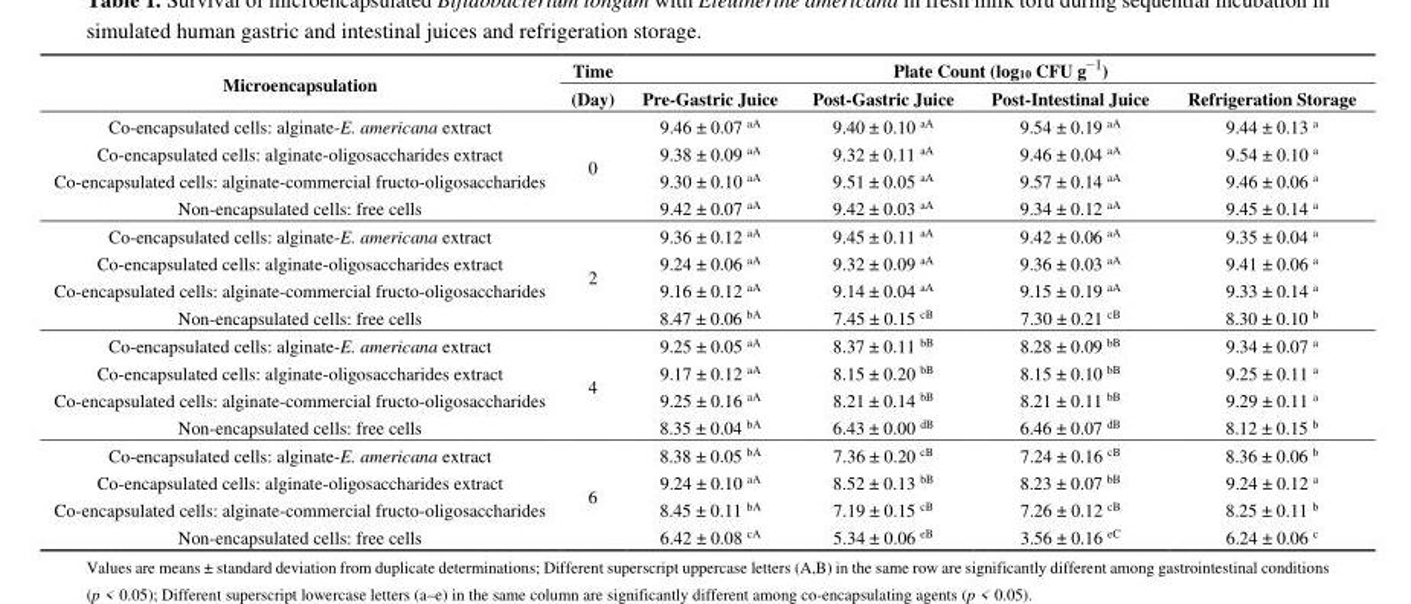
<table><thead><tr><td rowspan="2">Microencapsulation</td><td rowspan="2">Time (Day)</td><td colspan="4">Plate Count (log<sub>10</sub> CFU g<sup>−1</sup>)</td></tr><tr><td>Pre-Gastric Juice</td><td>Post-Gastric Juice</td><td>Post-Intestinal Juice</td><td>Refrigeration Storage</td></tr></thead><tbody><tr><td>Co-encapsulated cells: alginate-E. americana extract</td><td rowspan="4">0</td><td>9.46 ± 0.07 <sup>aA</sup></td><td>9.40 ± 0.10 <sup>aA</sup></td><td>9.54 ± 0.19 <sup>aA</sup></td><td>9.44 ± 0.13 <sup>a</sup></td></tr><tr><td>Co-encapsulated cells: alginate-oligosaccharides extract</td><td>9.38 ± 0.09 <sup>aA</sup></td><td>9.32 ± 0.11 <sup>aA</sup></td><td>9.46 ± 0.04 <sup>aA</sup></td><td>9.54 ± 0.10 <sup>a</sup></td></tr><tr><td>Co-encapsulated cells: alginate-commercial fructo-oligosaccharides</td><td>9.30 ± 0.10 <sup>aA</sup></td><td>9.51 ± 0.05 <sup>aA</sup></td><td>9.57 ± 0.14 <sup>aA</sup></td><td>9.46 ± 0.06 <sup>a</sup></td></tr><tr><td>Non-encapsulated cells: free cells</td><td>9.42 ± 0.07 <sup>aA</sup></td><td>9.42 ± 0.03 <sup>aA</sup></td><td>9.34 ± 0.12 <sup>aA</sup></td><td>9.45 ± 0.14 <sup>a</sup></td></tr><tr><td>Co-encapsulated cells: alginate-E. americana extract</td><td rowspan="4">2</td><td>9.36 ± 0.12 <sup>aA</sup></td><td>9.45 ± 0.11 <sup>aA</sup></td><td>9.42 ± 0.06 <sup>aA</sup></td><td>9.35 ± 0.04 <sup>a</sup></td></tr><tr><td>Co-encapsulated cells: alginate-oligosaccharides extract</td><td>9.24 ± 0.06 <sup>aA</sup></td><td>9.32 ± 0.09 <sup>aA</sup></td><td>9.36 ± 0.03 <sup>aA</sup></td><td>9.41 ± 0.06 <sup>a</sup></td></tr><tr><td>Co-encapsulated cells: alginate-commercial fructo-oligosaccharides</td><td>9.16 ± 0.12 <sup>aA</sup></td><td>9.14 ± 0.04 <sup>aA</sup></td><td>9.15 ± 0.19 <sup>aA</sup></td><td>9.33 ± 0.14 <sup>a</sup></td></tr><tr><td>Non-encapsulated cells: free cells</td><td>8.47 ± 0.06 <sup>bA</sup></td><td>7.45 ± 0.15 <sup>cB</sup></td><td>7.30 ± 0.21 <sup>cB</sup></td><td>8.30 ± 0.10 <sup>b</sup></td></tr><tr><td>Co-encapsulated cells: alginate-E. americana extract</td><td rowspan="4">4</td><td>9.25 ± 0.05 <sup>aA</sup></td><td>8.37 ± 0.11 <sup>bB</sup></td><td>8.28 ± 0.09 <sup>bB</sup></td><td>9.34 ± 0.07 <sup>a</sup></td></tr><tr><td>Co-encapsulated cells: alginate-oligosaccharides extract</td><td>9.17 ± 0.12 <sup>aA</sup></td><td>8.15 ± 0.20 <sup>bB</sup></td><td>8.15 ± 0.10 <sup>bB</sup></td><td>9.25 ± 0.11 <sup>a</sup></td></tr><tr><td>Co-encapsulated cells: alginate-commercial fructo-oligosaccharides</td><td>9.25 ± 0.16 <sup>aA</sup></td><td>8.21 ± 0.14 <sup>bB</sup></td><td>8.21 ± 0.11 <sup>bB</sup></td><td>9.29 ± 0.11 <sup>a</sup></td></tr><tr><td>Non-encapsulated cells: free cells</td><td>8.35 ± 0.04 <sup>bA</sup></td><td>6.43 ± 0.00 <sup>dB</sup></td><td>6.46 ± 0.07 <sup>dB</sup></td><td>8.12 ± 0.15 <sup>b</sup></td></tr><tr><td>Co-encapsulated cells: alginate-E. americana extract</td><td rowspan="4">6</td><td>8.38 ± 0.05 <sup>bA</sup></td><td>7.36 ± 0.20 <sup>cB</sup></td><td>7.24 ± 0.16 <sup>cB</sup></td><td>8.36 ± 0.06 <sup>b</sup></td></tr><tr><td>Co-encapsulated cells: alginate-oligosaccharides extract</td><td>9.24 ± 0.10 <sup>aA</sup></td><td>8.52 ± 0.13 <sup>bB</sup></td><td>8.23 ± 0.07 <sup>bB</sup></td><td>9.24 ± 0.12 <sup>a</sup></td></tr><tr><td>Co-encapsulated cells: alginate-commercial fructo-oligosaccharides</td><td>8.45 ± 0.11 <sup>bA</sup></td><td>7.19 ± 0.15 <sup>cB</sup></td><td>7.26 ± 0.12 <sup>cB</sup></td><td>8.25 ± 0.11 <sup>b</sup></td></tr><tr><td>Non-encapsulated cells: free cells</td><td>6.42 ± 0.08 <sup>cA</sup></td><td>5.34 ± 0.06 <sup>eB</sup></td><td>3.56 ± 0.16 <sup>eC</sup></td><td>6.24 ± 0.06 <sup>c</sup></td></tr></tbody></table>